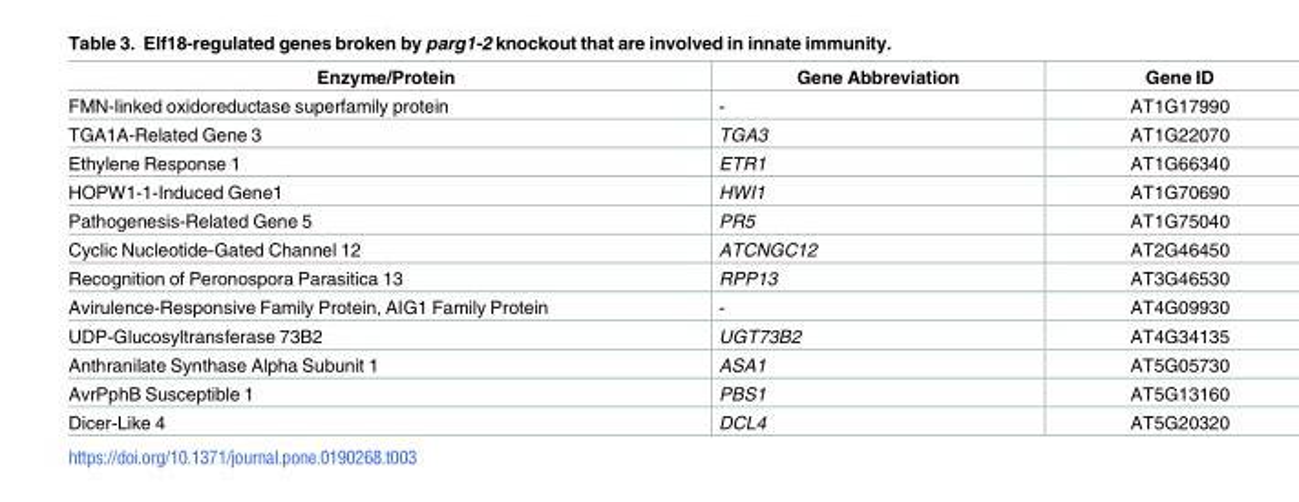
<table><thead><tr><td>Enzyme/Protein</td><td>Gene Abbreviation</td><td>Gene ID</td></tr></thead><tbody><tr><td>FMN-linked oxidoreductase superfamily protein</td><td>-</td><td>AT1G17990</td></tr><tr><td>TGA1A-Related Gene 3</td><td>TGA3</td><td>AT1G22070</td></tr><tr><td>Ethylene Response 1</td><td>ETR1</td><td>AT1G66340</td></tr><tr><td>HOPW1-1-Induced Gene1</td><td>HWI1</td><td>AT1G70690</td></tr><tr><td>Pathogenesis-Related Gene 5</td><td>PR5</td><td>AT1G75040</td></tr><tr><td>Cyclic Nucleotide-Gated Channel 12</td><td>ATCNGC12</td><td>AT2G46450</td></tr><tr><td>Recognition of Peronospora Parasitica 13</td><td>RPP13</td><td>AT3G46530</td></tr><tr><td>Avirulence-Responsive Family Protein, AIG1 Family Protein</td><td>-</td><td>AT4G09930</td></tr><tr><td>UDP-Glucosyltransferase 73B2</td><td>UGT73B2</td><td>AT4G34135</td></tr><tr><td>Anthranilate Synthase Alpha Subunit 1</td><td>ASA1</td><td>AT5G05730</td></tr><tr><td>AvrPphB Susceptible 1</td><td>PBS1</td><td>AT5G13160</td></tr><tr><td>Dicer-Like 4</td><td>DCL4</td><td>AT5G20320</td></tr></tbody></table>